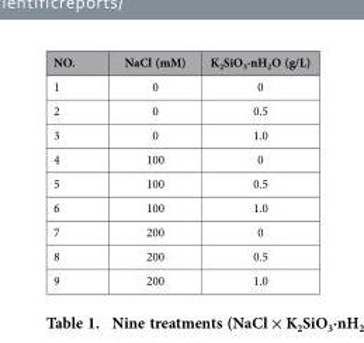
<table><thead><tr><td>NO.</td><td>NaCl (mM)</td><td>K<sub>2</sub>SiO<sub>3</sub>·nH<sub>2</sub>O (g/L)</td></tr></thead><tbody><tr><td>1</td><td>0</td><td>0</td></tr><tr><td>2</td><td>0</td><td>0.5</td></tr><tr><td>3</td><td>0</td><td>1.0</td></tr><tr><td>4</td><td>100</td><td>0</td></tr><tr><td>5</td><td>100</td><td>0.5</td></tr><tr><td>6</td><td>100</td><td>1.0</td></tr><tr><td>7</td><td>200</td><td>0</td></tr><tr><td>8</td><td>200</td><td>0.5</td></tr><tr><td>9</td><td>200</td><td>1.0</td></tr></tbody></table>